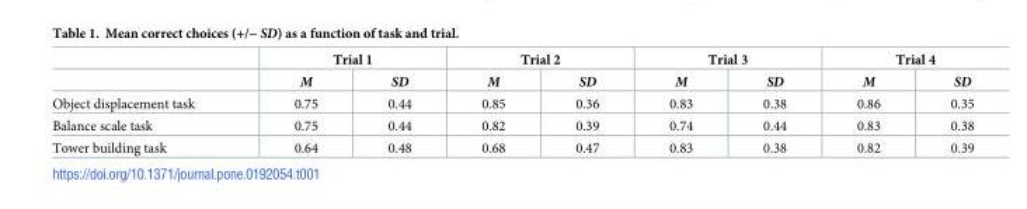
<table><thead><tr><td rowspan="2"></td><td colspan="2">Trial 1</td><td colspan="2">Trial 2</td><td colspan="2">Trial 3</td><td colspan="2">Trial 4</td></tr><tr><td>M</td><td>SD</td><td>M</td><td>SD</td><td>M</td><td>SD</td><td>M</td><td>SD</td></tr></thead><tbody><tr><td>Object displacement task</td><td>0.75</td><td>0.44</td><td>0.85</td><td>0.36</td><td>0.83</td><td>0.38</td><td>0.86</td><td>0.35</td></tr><tr><td>Balance scale task</td><td>0.75</td><td>0.44</td><td>0.82</td><td>0.39</td><td>0.74</td><td>0.44</td><td>0.83</td><td>0.38</td></tr><tr><td>Tower building task</td><td>0.64</td><td>0.48</td><td>0.68</td><td>0.47</td><td>0.83</td><td>0.38</td><td>0.82</td><td>0.39</td></tr></tbody></table>